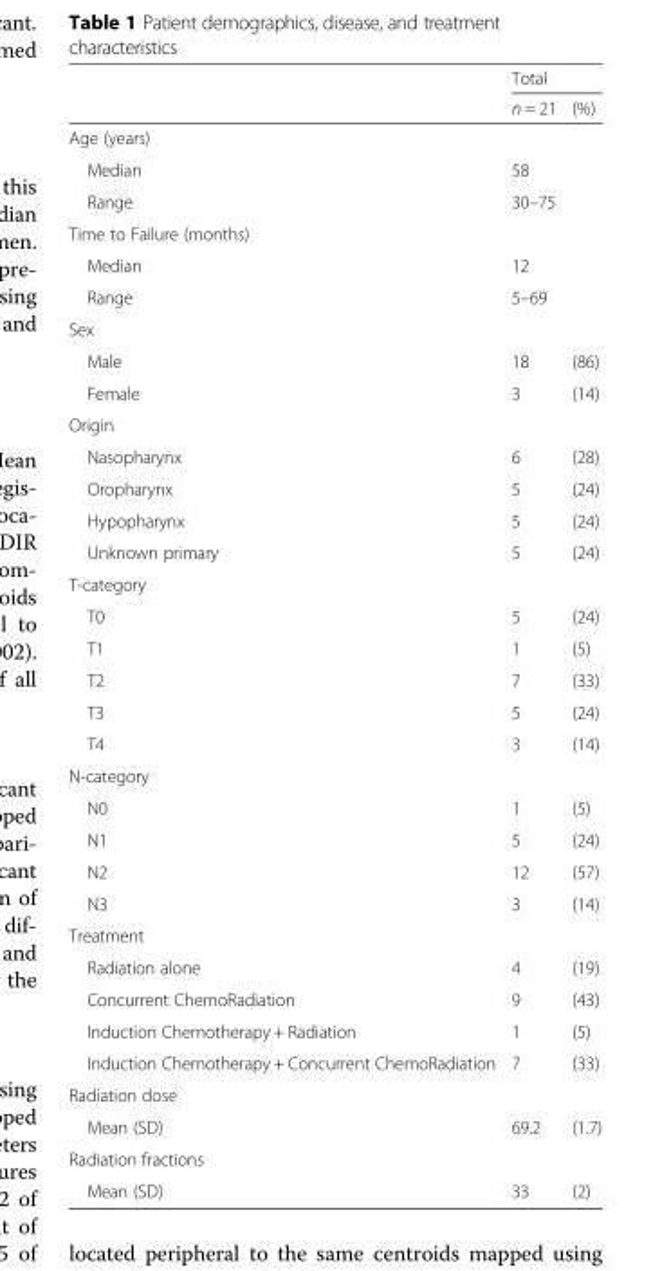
<table><thead><tr><td rowspan="2"></td><td colspan="2">Total</td></tr><tr><td>n = 21</td><td>(%)</td></tr></thead><tbody><tr><td colspan="3">Age (years)</td></tr><tr><td>Median</td><td>58</td><td></td></tr><tr><td>Range</td><td>30–75</td><td></td></tr><tr><td colspan="3">Time to Failure (months)</td></tr><tr><td>Median</td><td>12</td><td></td></tr><tr><td>Range</td><td>5–69</td><td></td></tr><tr><td colspan="3">Sex</td></tr><tr><td>Male</td><td>18</td><td>(86)</td></tr><tr><td>Female</td><td>3</td><td>(14)</td></tr><tr><td colspan="3">Origin</td></tr><tr><td>Nasopharynx</td><td>6</td><td>(28)</td></tr><tr><td>Oropharynx</td><td>5</td><td>(24)</td></tr><tr><td>Hypopharynx</td><td>5</td><td>(24)</td></tr><tr><td>Unknown primary</td><td>5</td><td>(24)</td></tr><tr><td colspan="3">T-category</td></tr><tr><td>T0</td><td>5</td><td>(24)</td></tr><tr><td>T1</td><td>1</td><td>(5)</td></tr><tr><td>T2</td><td>7</td><td>(33)</td></tr><tr><td>T3</td><td>5</td><td>(24)</td></tr><tr><td>T4</td><td>3</td><td>(14)</td></tr><tr><td colspan="3">N-category</td></tr><tr><td>N0</td><td>1</td><td>(5)</td></tr><tr><td>N1</td><td>5</td><td>(24)</td></tr><tr><td>N2</td><td>12</td><td>(57)</td></tr><tr><td>N3</td><td>3</td><td>(14)</td></tr><tr><td colspan="3">Treatment</td></tr><tr><td>Radiation alone</td><td>4</td><td>(19)</td></tr><tr><td>Concurrent ChemoRadiation</td><td>9</td><td>(43)</td></tr><tr><td>Induction Chemotherapy + Radiation</td><td>1</td><td>(5)</td></tr><tr><td>Induction Chemotherapy + Concurrent ChemoRadiation</td><td>7</td><td>(33)</td></tr><tr><td colspan="3">Radiation dose</td></tr><tr><td>Mean (SD)</td><td>69.2</td><td>(1.7)</td></tr><tr><td colspan="3">Radiation fractions</td></tr><tr><td>Mean (SD)</td><td>33</td><td>(2)</td></tr></tbody></table>